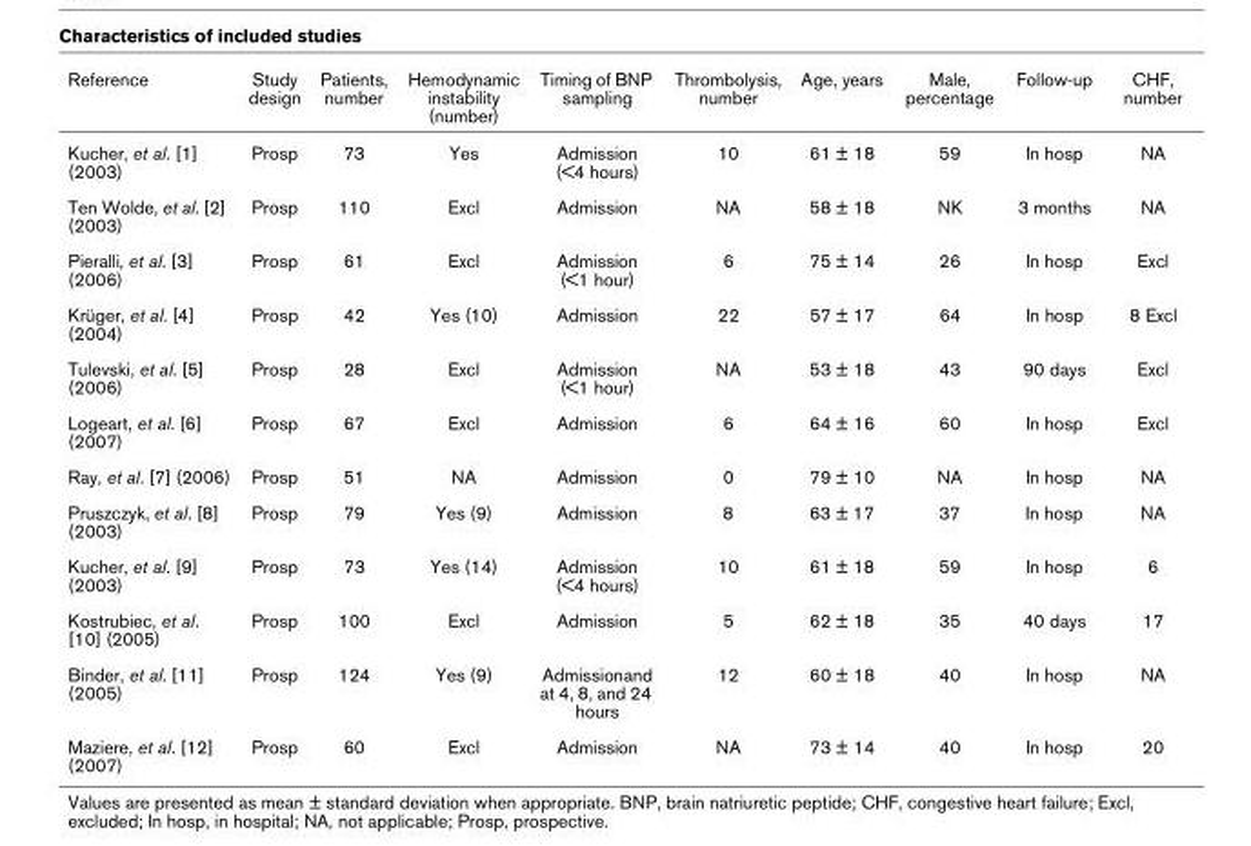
<table><thead><tr><td>Reference</td><td>Study design</td><td>Patients, number</td><td>Hemodynamic instability (number)</td><td>Timing of BNP sampling</td><td>Thrombolysis, number</td><td>Age, years</td><td>Male, percentage</td><td>Follow-up</td><td>CHF, number</td></tr></thead><tbody><tr><td>Kucher, et al. [1] (2003)</td><td>Prosp</td><td>73</td><td>Yes</td><td>Admission (&lt;4 hours)</td><td>10</td><td>61 ± 18</td><td>59</td><td>In hosp</td><td>NA</td></tr><tr><td>Ten Wolde, et al. [2] (2003)</td><td>Prosp</td><td>110</td><td>Excl</td><td>Admission</td><td>NA</td><td>58 ± 18</td><td>NK</td><td>3 months</td><td>NA</td></tr><tr><td>Pieralli, et al. [3] (2006)</td><td>Prosp</td><td>61</td><td>Excl</td><td>Admission (&lt;1 hour)</td><td>6</td><td>75 ± 14</td><td>26</td><td>In hosp</td><td>Excl</td></tr><tr><td>Krüger, et al. [4] (2004)</td><td>Prosp</td><td>42</td><td>Yes (10)</td><td>Admission</td><td>22</td><td>57 ± 17</td><td>64</td><td>In hosp</td><td>8 Excl</td></tr><tr><td>Tulevski, et al. [5] (2006)</td><td>Prosp</td><td>28</td><td>Excl</td><td>Admission (&lt;1 hour)</td><td>NA</td><td>53 ± 18</td><td>43</td><td>90 days</td><td>Excl</td></tr><tr><td>Logeart, et al. [6] (2007)</td><td>Prosp</td><td>67</td><td>Excl</td><td>Admission</td><td>6</td><td>64 ± 16</td><td>60</td><td>In hosp</td><td>Excl</td></tr><tr><td>Ray, et al. [7] (2006)</td><td>Prosp</td><td>51</td><td>NA</td><td>Admission</td><td>0</td><td>79 ± 10</td><td>NA</td><td>In hosp</td><td>NA</td></tr><tr><td>Pruszczyk, et al. [8] (2003)</td><td>Prosp</td><td>79</td><td>Yes (9)</td><td>Admission</td><td>8</td><td>63 ± 17</td><td>37</td><td>In hosp</td><td>NA</td></tr><tr><td>Kucher, et al. [9] (2003)</td><td>Prosp</td><td>73</td><td>Yes (14)</td><td>Admission (&lt;4 hours)</td><td>10</td><td>61 ± 18</td><td>59</td><td>In hosp</td><td>6</td></tr><tr><td>Kostrubiec, et al. [10] (2005)</td><td>Prosp</td><td>100</td><td>Excl</td><td>Admission</td><td>5</td><td>62 ± 18</td><td>35</td><td>40 days</td><td>17</td></tr><tr><td>Binder, et al. [11] (2005)</td><td>Prosp</td><td>124</td><td>Yes (9)</td><td>Admissionand at 4, 8, and 24 hours</td><td>12</td><td>60 ± 18</td><td>40</td><td>In hosp</td><td>NA</td></tr><tr><td>Maziere, et al. [12] (2007)</td><td>Prosp</td><td>60</td><td>Excl</td><td>Admission</td><td>NA</td><td>73 ± 14</td><td>40</td><td>In hosp</td><td>20</td></tr></tbody></table>